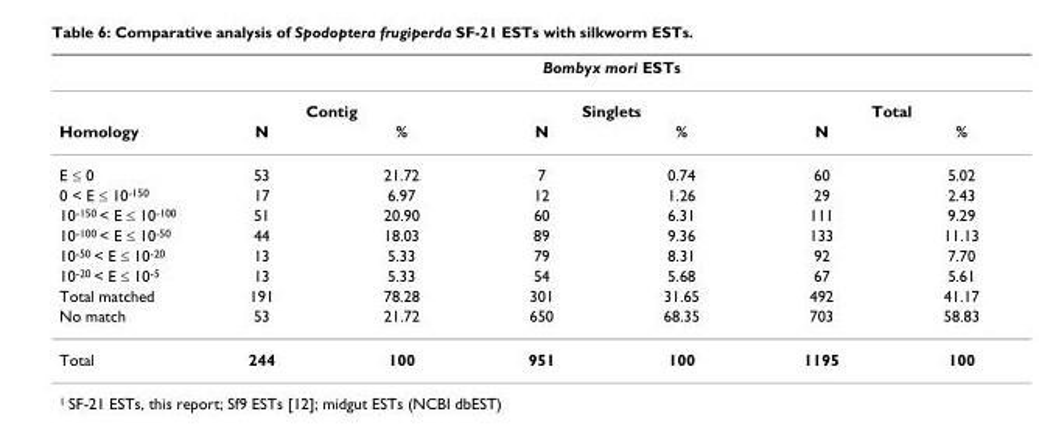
<table><thead><tr><td rowspan="3">Homology</td><td colspan="6">Bombyx mori ESTs</td></tr><tr><td colspan="2">Contig</td><td colspan="2">Singlets</td><td colspan="2">Total</td></tr><tr><td>N</td><td>%</td><td>N</td><td>%</td><td>N</td><td>%</td></tr></thead><tbody><tr><td>E ≤ 0</td><td>53</td><td>21.72</td><td>7</td><td>0.74</td><td>60</td><td>5.02</td></tr><tr><td>0 &lt; E ≤ 10-150</td><td>17</td><td>6.97</td><td>12</td><td>1.26</td><td>29</td><td>2.43</td></tr><tr><td>10-150 &lt; E ≤ 10-100</td><td>51</td><td>20.90</td><td>60</td><td>6.31</td><td>111</td><td>9.29</td></tr><tr><td>10-100 &lt; E ≤ 10-50</td><td>44</td><td>18.03</td><td>89</td><td>9.36</td><td>133</td><td>11.13</td></tr><tr><td>10-50 &lt; E ≤ 10-20</td><td>13</td><td>5.33</td><td>79</td><td>8.31</td><td>92</td><td>7.70</td></tr><tr><td>10-20 &lt; E ≤ 10-5</td><td>13</td><td>5.33</td><td>54</td><td>5.68</td><td>67</td><td>5.61</td></tr><tr><td>Total matched</td><td>191</td><td>78.28</td><td>301</td><td>31.65</td><td>492</td><td>41.17</td></tr><tr><td>No match</td><td>53</td><td>21.72</td><td>650</td><td>68.35</td><td>703</td><td>58.83</td></tr><tr><td>Total</td><td>244</td><td>100</td><td>951</td><td>100</td><td>1195</td><td>100</td></tr></tbody></table>